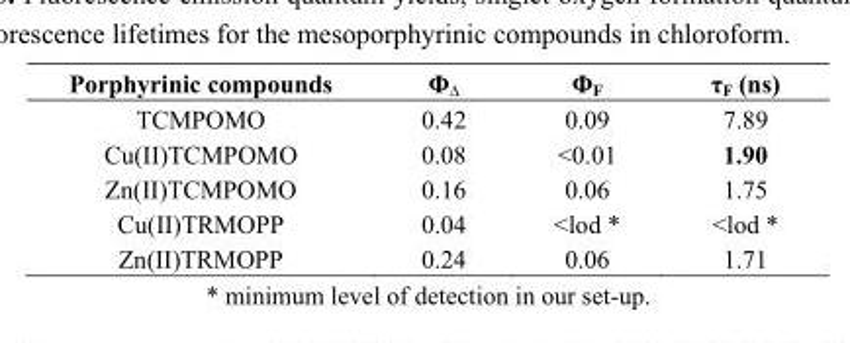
<table><thead><tr><td>Porphyrinic compounds</td><td>Φ∆</td><td>Φ<sub>F</sub></td><td>τ<sub>F</sub> (ns)</td></tr></thead><tbody><tr><td>TCMPOMO</td><td>0.42</td><td>0.09</td><td>7.89</td></tr><tr><td>Cu(II)TCMPOMO</td><td>0.08</td><td>&lt;0.01</td><td>1.90</td></tr><tr><td>Zn(II)TCMPOMO</td><td>0.16</td><td>0.06</td><td>1.75</td></tr><tr><td>Cu(II)TRMOPP</td><td>0.04</td><td>&lt;lod *</td><td>&lt;lod *</td></tr><tr><td>Zn(II)TRMOPP</td><td>0.24</td><td>0.06</td><td>1.71</td></tr></tbody></table>